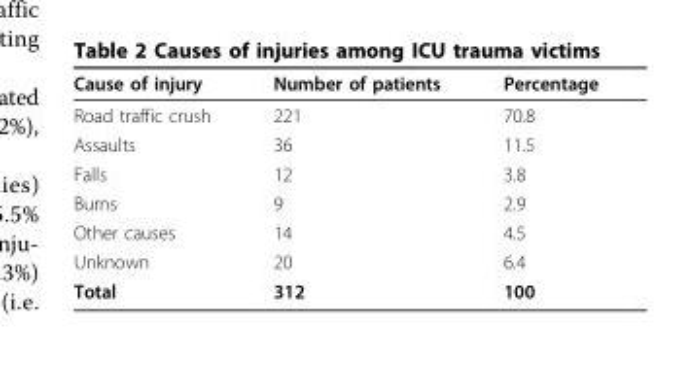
<table><thead><tr><td>Cause of injury</td><td>Number of patients</td><td>Percentage</td></tr></thead><tbody><tr><td>Road traffic crush</td><td>221</td><td>70.8</td></tr><tr><td>Assaults</td><td>36</td><td>11.5</td></tr><tr><td>Falls</td><td>12</td><td>3.8</td></tr><tr><td>Burns</td><td>9</td><td>2.9</td></tr><tr><td>Other causes</td><td>14</td><td>4.5</td></tr><tr><td>Unknown</td><td>20</td><td>6.4</td></tr><tr><td>Total</td><td>312</td><td>100</td></tr></tbody></table>